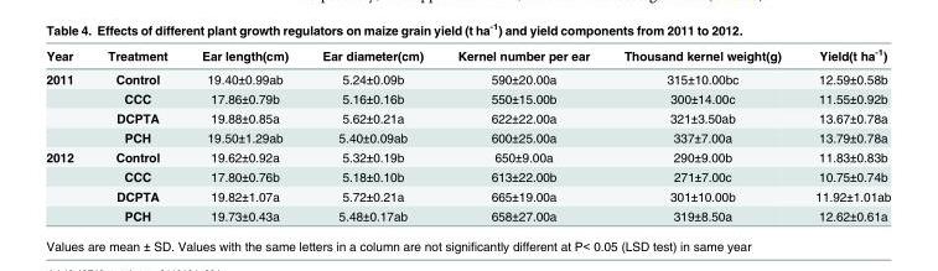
<table><thead><tr><td>Year</td><td>Treatment</td><td>Ear length(cm)</td><td>Ear diameter(cm)</td><td>Kernel number per ear</td><td>Thousand kernel weight(g)</td><td>Yield(t ha<sup>-1</sup>)</td></tr></thead><tbody><tr><td rowspan="4">2011</td><td>Control</td><td>19.40±0.99ab</td><td>5.24±0.09b</td><td>590±20.00a</td><td>315±10.00bc</td><td>12.59±0.58b</td></tr><tr><td>CCC</td><td>17.86±0.79b</td><td>5.16±0.16b</td><td>550±15.00b</td><td>300±14.00c</td><td>11.55±0.92b</td></tr><tr><td>DCPTA</td><td>19.88±0.85a</td><td>5.62±0.21a</td><td>622±22.00a</td><td>321±3.50ab</td><td>13.67±0.78a</td></tr><tr><td>PCH</td><td>19.50±1.29ab</td><td>5.40±0.09ab</td><td>600±25.00a</td><td>337±7.00a</td><td>13.79±0.78a</td></tr><tr><td rowspan="4">2012</td><td>Control</td><td>19.62±0.92a</td><td>5.32±0.19b</td><td>650±9.00a</td><td>290±9.00b</td><td>11.83±0.83b</td></tr><tr><td>CCC</td><td>17.80±0.76b</td><td>5.18±0.10b</td><td>613±22.00b</td><td>271±7.00c</td><td>10.75±0.74b</td></tr><tr><td>DCPTA</td><td>19.82±1.07a</td><td>5.72±0.21a</td><td>665±19.00a</td><td>301±10.00b</td><td>11.92±1.01ab</td></tr><tr><td>PCH</td><td>19.73±0.43a</td><td>5.48±0.17ab</td><td>658±27.00a</td><td>319±8.50a</td><td>12.62±0.61a</td></tr></tbody></table>